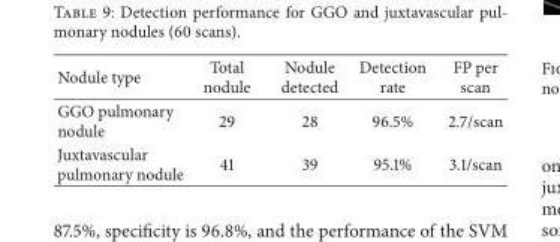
<table><thead><tr><td>Nodule type</td><td>Total nodule</td><td>Nodule detected</td><td>Detection rate</td><td>FP per scan</td></tr></thead><tbody><tr><td>GGO pulmonary nodule</td><td>29</td><td>28</td><td>96.5%</td><td>2.7/scan</td></tr><tr><td>Juxtavascular pulmonary nodule</td><td>41</td><td>39</td><td>95.1%</td><td>3.1/scan</td></tr></tbody></table>